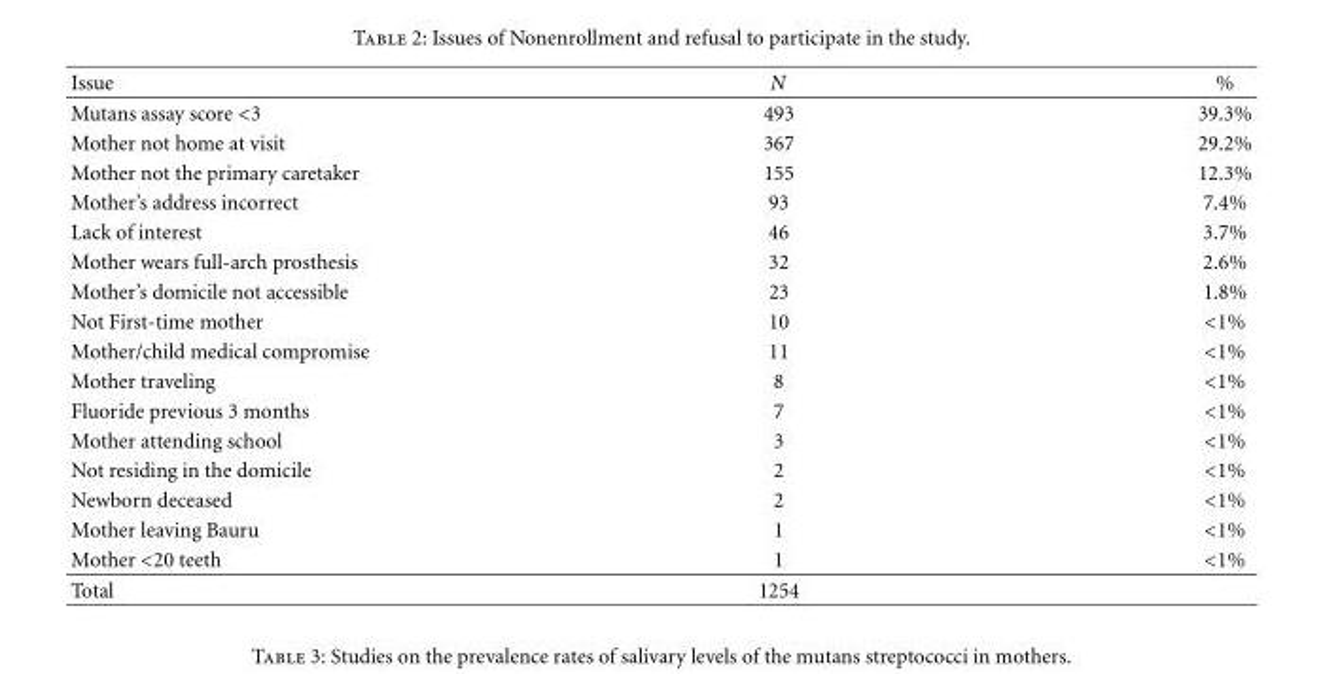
<table><thead><tr><td>Issue</td><td>N</td><td>%</td></tr></thead><tbody><tr><td>Mutans assay score &lt;3</td><td>493</td><td>39.3%</td></tr><tr><td>Mother not home at visit</td><td>367</td><td>29.2%</td></tr><tr><td>Mother not the primary caretaker</td><td>155</td><td>12.3%</td></tr><tr><td>Mother’s address incorrect</td><td>93</td><td>7.4%</td></tr><tr><td>Lack of interest</td><td>46</td><td>3.7%</td></tr><tr><td>Mother wears full-arch prosthesis</td><td>32</td><td>2.6%</td></tr><tr><td>Mother’s domicile not accessible</td><td>23</td><td>1.8%</td></tr><tr><td>Not First-time mother</td><td>10</td><td>&lt;1%</td></tr><tr><td>Mother/child medical compromise</td><td>11</td><td>&lt;1%</td></tr><tr><td>Mother traveling</td><td>8</td><td>&lt;1%</td></tr><tr><td>Fluoride previous 3 months</td><td>7</td><td>&lt;1%</td></tr><tr><td>Mother attending school</td><td>3</td><td>&lt;1%</td></tr><tr><td>Not residing in the domicile</td><td>2</td><td>&lt;1%</td></tr><tr><td>Newborn deceased</td><td>2</td><td>&lt;1%</td></tr><tr><td>Mother leaving Bauru</td><td>1</td><td>&lt;1%</td></tr><tr><td>Mother &lt;20 teeth</td><td>1</td><td>&lt;1%</td></tr><tr><td>Total</td><td>1254</td><td></td></tr></tbody></table>